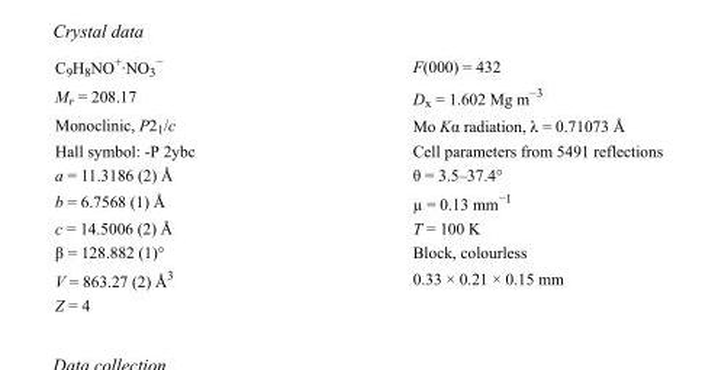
<table><tbody><tr><td>C<sub>9</sub>H<sub>8</sub>NO<sup>+</sup>·NO<sub>3</sub> <sup>−</sup></td><td>F(000) = 432</td></tr><tr><td>M<sub>r</sub> = 208.17</td><td>D<sub>x</sub> = 1.602 Mg m<sup>−3</sup></td></tr><tr><td>Monoclinic, P2<sub>1</sub>/c</td><td>Mo Kα radiation, λ = 0.71073 Å</td></tr><tr><td>Hall symbol: -P 2ybc</td><td>Cell parameters from 5491 reflections</td></tr><tr><td>a = 11.3186 (2) Å</td><td>θ = 3.5–37.4°</td></tr><tr><td>b = 6.7568 (1) Å</td><td>µ = 0.13 mm<sup>−1</sup></td></tr><tr><td>c = 14.5006 (2) Å</td><td>T = 100 K</td></tr><tr><td>β = 128.882 (1)°</td><td>Block, colourless</td></tr><tr><td>V = 863.27 (2) Å<sup>3</sup></td><td>0.33 × 0.21 × 0.15 mm</td></tr><tr><td>Z = 4</td><td></td></tr></tbody></table>